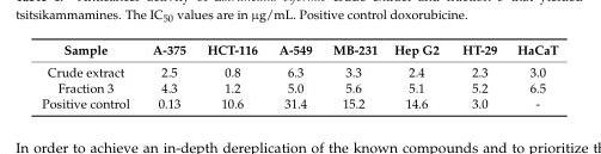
<table><thead><tr><td>Sample</td><td>A-375</td><td>HCT-116</td><td>A-549</td><td>MB-231</td><td>Hep G2</td><td>HT-29</td><td>HaCaT</td></tr></thead><tbody><tr><td>Crude extract</td><td>2.5</td><td>0.8</td><td>6.3</td><td>3.3</td><td>2.4</td><td>2.3</td><td>3.0</td></tr><tr><td>Fraction 3</td><td>4.3</td><td>1.2</td><td>5.0</td><td>5.6</td><td>5.1</td><td>5.2</td><td>6.5</td></tr><tr><td>Positive control</td><td>0.13</td><td>10.6</td><td>31.4</td><td>15.2</td><td>14.6</td><td>3.0</td><td>-</td></tr></tbody></table>